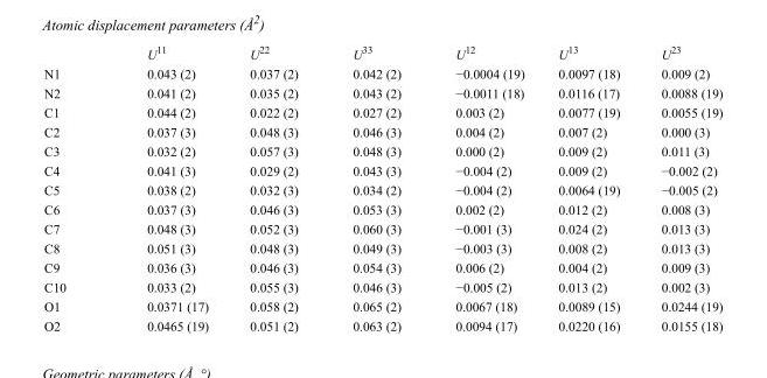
<table><thead><tr><td></td><td>U<sup>11</sup></td><td>U<sup>22</sup></td><td>U<sup>33</sup></td><td>U<sup>12</sup></td><td>U<sup>13</sup></td><td>U<sup>23</sup></td></tr></thead><tbody><tr><td>N1</td><td>0.043 (2)</td><td>0.037 (2)</td><td>0.042 (2)</td><td>−0.0004 (19)</td><td>0.0097 (18)</td><td>0.009 (2)</td></tr><tr><td>N2</td><td>0.041 (2)</td><td>0.035 (2)</td><td>0.043 (2)</td><td>−0.0011 (18)</td><td>0.0116 (17)</td><td>0.0088 (19)</td></tr><tr><td>C1</td><td>0.044 (2)</td><td>0.022 (2)</td><td>0.027 (2)</td><td>0.003 (2)</td><td>0.0077 (19)</td><td>0.0055 (19)</td></tr><tr><td>C2</td><td>0.037 (3)</td><td>0.048 (3)</td><td>0.046 (3)</td><td>0.004 (2)</td><td>0.007 (2)</td><td>0.000 (3)</td></tr><tr><td>C3</td><td>0.032 (2)</td><td>0.057 (3)</td><td>0.048 (3)</td><td>0.000 (2)</td><td>0.009 (2)</td><td>0.011 (3)</td></tr><tr><td>C4</td><td>0.041 (3)</td><td>0.029 (2)</td><td>0.043 (3)</td><td>−0.004 (2)</td><td>0.009 (2)</td><td>−0.002 (2)</td></tr><tr><td>C5</td><td>0.038 (2)</td><td>0.032 (3)</td><td>0.034 (2)</td><td>−0.004 (2)</td><td>0.0064 (19)</td><td>−0.005 (2)</td></tr><tr><td>C6</td><td>0.037 (3)</td><td>0.046 (3)</td><td>0.053 (3)</td><td>0.002 (2)</td><td>0.012 (2)</td><td>0.008 (3)</td></tr><tr><td>C7</td><td>0.048 (3)</td><td>0.052 (3)</td><td>0.060 (3)</td><td>−0.001 (3)</td><td>0.024 (2)</td><td>0.013 (3)</td></tr><tr><td>C8</td><td>0.051 (3)</td><td>0.048 (3)</td><td>0.049 (3)</td><td>−0.003 (3)</td><td>0.008 (2)</td><td>0.013 (3)</td></tr><tr><td>C9</td><td>0.036 (3)</td><td>0.046 (3)</td><td>0.054 (3)</td><td>0.006 (2)</td><td>0.004 (2)</td><td>0.009 (3)</td></tr><tr><td>C10</td><td>0.033 (2)</td><td>0.055 (3)</td><td>0.046 (3)</td><td>−0.005 (2)</td><td>0.013 (2)</td><td>0.002 (3)</td></tr><tr><td>O1</td><td>0.0371 (17)</td><td>0.058 (2)</td><td>0.065 (2)</td><td>0.0067 (18)</td><td>0.0089 (15)</td><td>0.0244 (19)</td></tr><tr><td>O2</td><td>0.0465 (19)</td><td>0.051 (2)</td><td>0.063 (2)</td><td>0.0094 (17)</td><td>0.0220 (16)</td><td>0.0155 (18)</td></tr></tbody></table>